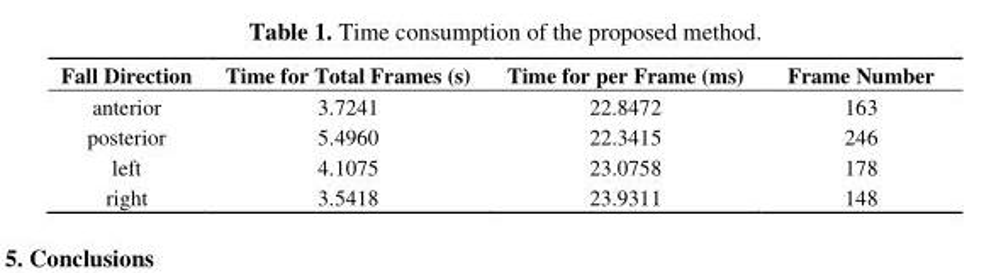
<table><thead><tr><td>Fall Direction</td><td>Time for Total Frames (s)</td><td>Time for per Frame (ms)</td><td>Frame Number</td></tr></thead><tbody><tr><td>anterior</td><td>3.7241</td><td>22.8472</td><td>163</td></tr><tr><td>posterior</td><td>5.4960</td><td>22.3415</td><td>246</td></tr><tr><td>left</td><td>4.1075</td><td>23.0758</td><td>178</td></tr><tr><td>right</td><td>3.5418</td><td>23.9311</td><td>148</td></tr></tbody></table>